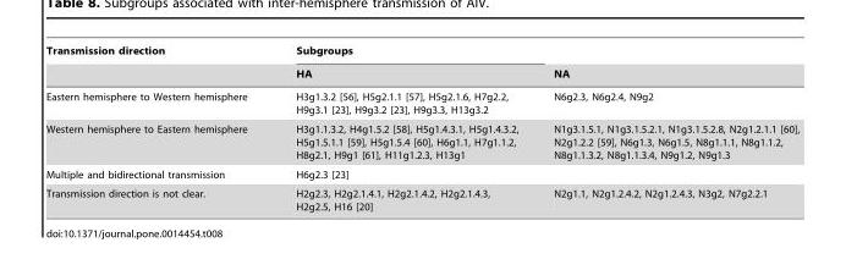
<table><thead><tr><td rowspan="2">Transmission direction</td><td rowspan="2">Subgroups HA</td><td rowspan="2">NA</td></tr><tr></tr></thead><tbody><tr><td>Eastern hemisphere to Western hemisphere</td><td>H3g1.3.2 [56], H5g2.1.1 [57], H5g2.1.6, H7g2.2, H9g3.1 [23], H9g3.2 [23], H9g3.3, H13g3.2</td><td>N6g2.3, N6g2.4, N9g2</td></tr><tr><td>Western hemisphere to Eastern hemisphere</td><td>H3g1.1.3.2, H4g1.5.2 [58], H5g1.4.3.1, H5g1.4.3.2, H5g1.5.1.1 [59], H5g1.5.4 [60], H6g1.1, H7g1.1.2, H8g2.1, H9g1 [61], H11g1.2.3, H13g1</td><td>N1g3.1.5.1, N1g3.1.5.2.1, N1g3.1.5.2.8, N2g1.2.1.1 [60], N2g1.2.2 [59], N6g1.3, N6g1.5, N8g1.1.1, N8g1.1.2, N8g1.1.3.2, N8g1.1.3.4, N9g1.2, N9g1.3</td></tr><tr><td>Multiple and bidirectional transmission</td><td>H6g2.3 [23]</td><td></td></tr><tr><td>Transmission direction is not clear.</td><td>H2g2.3, H2g2.1.4.1, H2g2.1.4.2, H2g2.1.4.3, H2g2.5, H16 [20]</td><td>N2g1.1, N2g1.2.4.2, N2g1.2.4.3, N3g2, N7g2.2.1</td></tr></tbody></table>